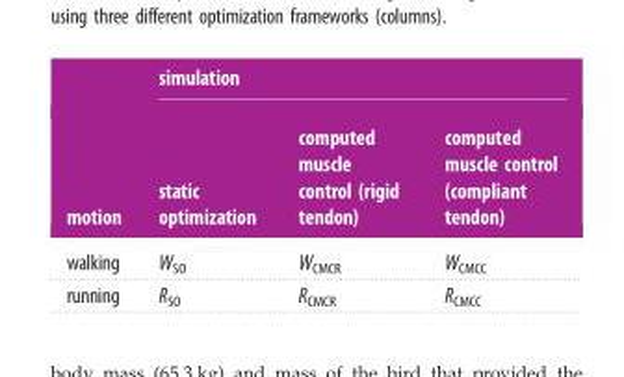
<table><thead><tr><td rowspan="2">motion</td><td colspan="3">simulation</td></tr><tr><td>static optimization</td><td>computed muscle control (rigid tendon)</td><td>computed muscle control (compliant tendon)</td></tr></thead><tbody><tr><td>walking</td><td>W<sub>SO</sub></td><td>W<sub>CMCR</sub></td><td>W<sub>CMCC</sub></td></tr><tr><td>running</td><td>R<sub>SO</sub></td><td>R<sub>CMCR</sub></td><td>R<sub>CMCC</sub></td></tr></tbody></table>